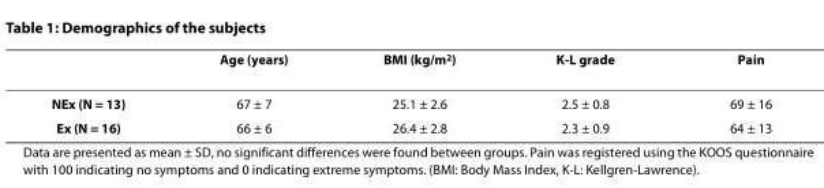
<table><thead><tr><td></td><td>Age (years)</td><td>BMI (kg/m<sup>2</sup>)</td><td>K-L grade</td><td>Pain</td></tr></thead><tbody><tr><td>NEx (N = 13)</td><td>67 ± 7</td><td>25.1 ± 2.6</td><td>2.5 ± 0.8</td><td>69 ± 16</td></tr><tr><td>Ex (N = 16)</td><td>66 ± 6</td><td>26.4 ± 2.8</td><td>2.3 ± 0.9</td><td>64 ± 13</td></tr></tbody></table>